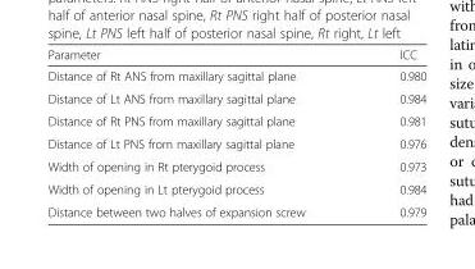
<table><thead><tr><td>Parameter</td><td>ICC</td></tr></thead><tbody><tr><td>Distance of Rt ANS from maxillary sagittal plane</td><td>0.980</td></tr><tr><td>Distance of Lt ANS from maxillary sagittal plane</td><td>0.984</td></tr><tr><td>Distance of Rt PNS from maxillary sagittal plane</td><td>0.981</td></tr><tr><td>Distance of Lt PNS from maxillary sagittal plane</td><td>0.976</td></tr><tr><td>Width of opening in Rt pterygoid process</td><td>0.973</td></tr><tr><td>Width of opening in Lt pterygoid process</td><td>0.984</td></tr><tr><td>Distance between two halves of expansion screw</td><td>0.979</td></tr></tbody></table>